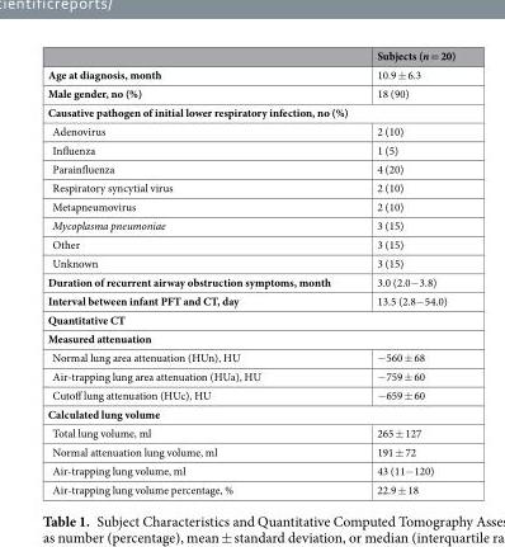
<table><thead><tr><td></td><td>Subjects (n = 20)</td></tr></thead><tbody><tr><td>Age at diagnosis, month</td><td>10.9 ± 6.3</td></tr><tr><td>Male gender, no (%)</td><td>18 (90)</td></tr><tr><td colspan="2">Causative pathogen of initial lower respiratory infection, no (%)</td></tr><tr><td>Adenovirus</td><td>2 (10)</td></tr><tr><td>Influenza</td><td>1 (5)</td></tr><tr><td>Parainfluenza</td><td>4 (20)</td></tr><tr><td>Respiratory syncytial virus</td><td>2 (10)</td></tr><tr><td>Metapneumovirus</td><td>2 (10)</td></tr><tr><td>Mycoplasma pneumoniae</td><td>3 (15)</td></tr><tr><td>Other</td><td>3 (15)</td></tr><tr><td>Unknown</td><td>3 (15)</td></tr><tr><td>Duration of recurrent airway obstruction symptoms, month</td><td>3.0 (2.0−3.8)</td></tr><tr><td>Interval between infant PFT and CT, day</td><td>13.5 (2.8−54.0)</td></tr><tr><td colspan="2">Quantitative CT</td></tr><tr><td colspan="2">Measured attenuation</td></tr><tr><td>Normal lung area attenuation (HUn), HU</td><td>−560 ± 68</td></tr><tr><td>Air-trapping lung area attenuation (HUa), HU</td><td>−759 ± 60</td></tr><tr><td>Cutoff lung attenuation (HUc), HU</td><td>−659 ± 60</td></tr><tr><td colspan="2">Calculated lung volume</td></tr><tr><td>Total lung volume, ml</td><td>265 ± 127</td></tr><tr><td>Normal attenuation lung volume, ml</td><td>191 ± 72</td></tr><tr><td>Air-trapping lung volume, ml</td><td>43 (11−120)</td></tr><tr><td>Air-trapping lung volume percentage, %</td><td>22.9 ± 18</td></tr></tbody></table>